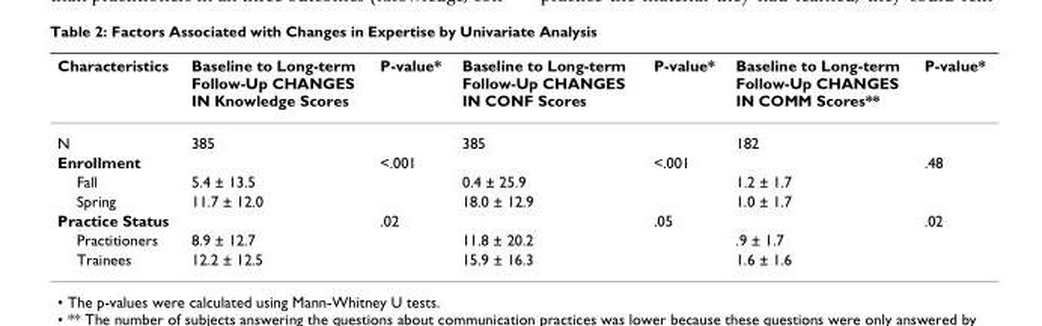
<table><thead><tr><td>Characteristics</td><td>Baseline to Long-term Follow-Up CHANGES IN Knowledge Scores</td><td>P-value*</td><td>Baseline to Long-term Follow-Up CHANGES IN CONF Scores</td><td>P-value*</td><td>Baseline to Long-term Follow-Up CHANGES IN COMM Scores**</td><td>P-value*</td></tr></thead><tbody><tr><td>N</td><td>385</td><td></td><td>385</td><td></td><td>182</td><td></td></tr><tr><td>Enrollment</td><td></td><td>&lt;.001</td><td></td><td>&lt;.001</td><td></td><td>.48</td></tr><tr><td>Fall</td><td>5.4 ± 13.5</td><td></td><td>0.4 ± 25.9</td><td></td><td>1.2 ± 1.7</td><td></td></tr><tr><td>Spring</td><td>11.7 ± 12.0</td><td></td><td>18.0 ± 12.9</td><td></td><td>1.0 ± 1.7</td><td></td></tr><tr><td>Practice Status</td><td></td><td>.02</td><td></td><td>.05</td><td></td><td>.02</td></tr><tr><td>Practitioners</td><td>8.9 ± 12.7</td><td></td><td>11.8 ± 20.2</td><td></td><td>.9 ± 1.7</td><td></td></tr><tr><td>Trainees</td><td>12.2 ± 12.5</td><td></td><td>15.9 ± 16.3</td><td></td><td>1.6 ± 1.6</td><td></td></tr></tbody></table>